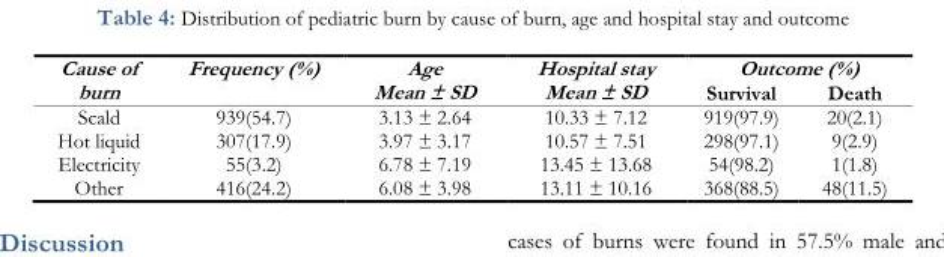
<table><thead><tr><td rowspan="2">Cause of burn</td><td rowspan="2">Frequency (%)</td><td rowspan="2">Age Mean ± SD</td><td rowspan="2">Hospital stay Mean ± SD</td><td colspan="2">Outcome (%)</td></tr><tr><td>Survival</td><td>Death</td></tr></thead><tbody><tr><td>Scald</td><td>939(54.7)</td><td>3.13 ± 2.64</td><td>10.33 ± 7.12</td><td>919(97.9)</td><td>20(2.1)</td></tr><tr><td>Hot liquid</td><td>307(17.9)</td><td>3.97 ± 3.17</td><td>10.57 ± 7.51</td><td>298(97.1)</td><td>9(2.9)</td></tr><tr><td>Electricity</td><td>55(3.2)</td><td>6.78 ± 7.19</td><td>13.45 ± 13.68</td><td>54(98.2)</td><td>1(1.8)</td></tr><tr><td>Other</td><td>416(24.2)</td><td>6.08 ± 3.98</td><td>13.11 ± 10.16</td><td>368(88.5)</td><td>48(11.5)</td></tr></tbody></table>